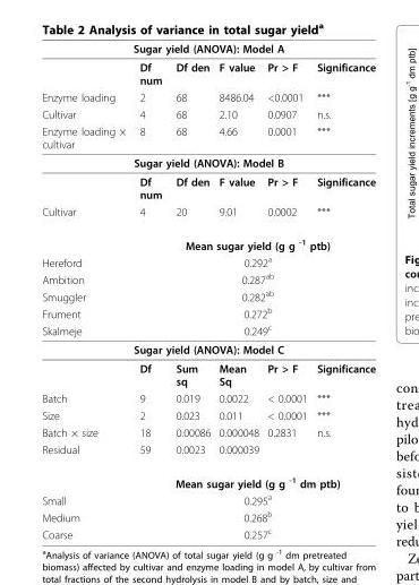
<table><thead><tr><td colspan="6">Sugar yield (ANOVA): Model A</td></tr><tr><td></td><td>Df num</td><td>Df den</td><td>F value</td><td>Pr &gt; F</td><td>Significance</td></tr></thead><tbody><tr><td>Enzyme loading</td><td>2</td><td>68</td><td>8486.04</td><td>&lt;0.0001</td><td>***</td></tr><tr><td>Cultivar</td><td>4</td><td>68</td><td>2.10</td><td>0.0907</td><td>n.s.</td></tr><tr><td>Enzyme loading × cultivar</td><td>8</td><td>68</td><td>4.66</td><td>0.0001</td><td>***</td></tr><tr><td colspan="6">Sugar yield (ANOVA): Model B</td></tr><tr><td></td><td>Df num</td><td>Df den</td><td>F value</td><td>Pr &gt; F</td><td>Significance</td></tr><tr><td rowspan="2">Cultivar</td><td>4</td><td>20</td><td>9.01</td><td>0.0002</td><td>***</td></tr><tr><td colspan="5">Mean sugar yield (g g <sup>-1</sup> ptb)</td></tr><tr><td>Hereford</td><td colspan="5">0.292<sup>a</sup></td></tr><tr><td>Ambition</td><td colspan="5">0.287<sup>ab</sup></td></tr><tr><td>Smuggler</td><td colspan="5">0.282<sup>ab</sup></td></tr><tr><td>Frument</td><td colspan="5">0.272<sup>b</sup></td></tr><tr><td>Skalmeje</td><td colspan="5">0.249<sup>c</sup></td></tr><tr><td colspan="6">Sugar yield (ANOVA): Model C</td></tr><tr><td></td><td>Df</td><td>Sum sq</td><td>Mean Sq</td><td>Pr &gt; F</td><td>Significance</td></tr><tr><td>Batch</td><td>9</td><td>0.019</td><td>0.0022</td><td>&lt; 0.0001</td><td>***</td></tr><tr><td>Size</td><td>2</td><td>0.023</td><td>0.011</td><td>&lt; 0.0001</td><td>***</td></tr><tr><td>Batch × size</td><td>18</td><td>0.00086</td><td>0.000048</td><td>0.2831</td><td>n.s.</td></tr><tr><td rowspan="2">Residual</td><td>59</td><td>0.0023</td><td>0.000039</td><td></td><td></td></tr><tr><td colspan="5">Mean sugar yield (g g <sup>-1</sup> dm ptb)</td></tr><tr><td>Small</td><td colspan="5">0.295<sup>a</sup></td></tr><tr><td>Medium</td><td colspan="5">0.268<sup>b</sup></td></tr><tr><td>Coarse</td><td colspan="5">0.257<sup>c</sup></td></tr></tbody></table>